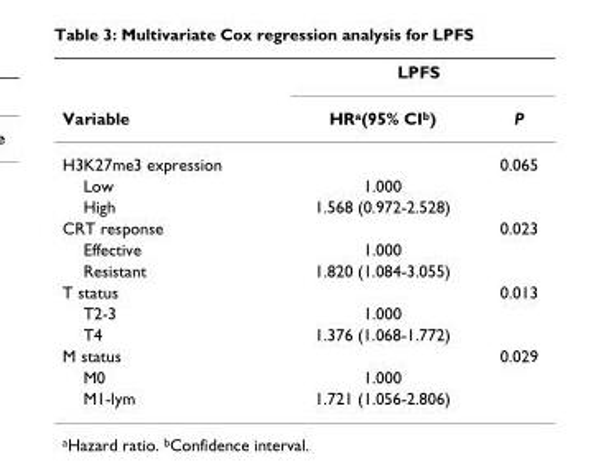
<table><thead><tr><td rowspan="2">Variable</td><td colspan="2">LPFS</td></tr><tr><td>HR<sup>a</sup>(95% CI<sup>b</sup>)</td><td>P</td></tr></thead><tbody><tr><td>H3K27me3 expression</td><td></td><td>0.065</td></tr><tr><td>Low</td><td>1.000</td><td></td></tr><tr><td>High</td><td>1.568 (0.972-2.528)</td><td></td></tr><tr><td>CRT response</td><td></td><td>0.023</td></tr><tr><td>Effective</td><td>1.000</td><td></td></tr><tr><td>Resistant</td><td>1.820 (1.084-3.055)</td><td></td></tr><tr><td>T status</td><td></td><td>0.013</td></tr><tr><td>T2-3</td><td>1.000</td><td></td></tr><tr><td>T4</td><td>1.376 (1.068-1.772)</td><td></td></tr><tr><td>M status</td><td></td><td>0.029</td></tr><tr><td>M0</td><td>1.000</td><td></td></tr><tr><td>M1-lym</td><td>1.721 (1.056-2.806)</td><td></td></tr></tbody></table>